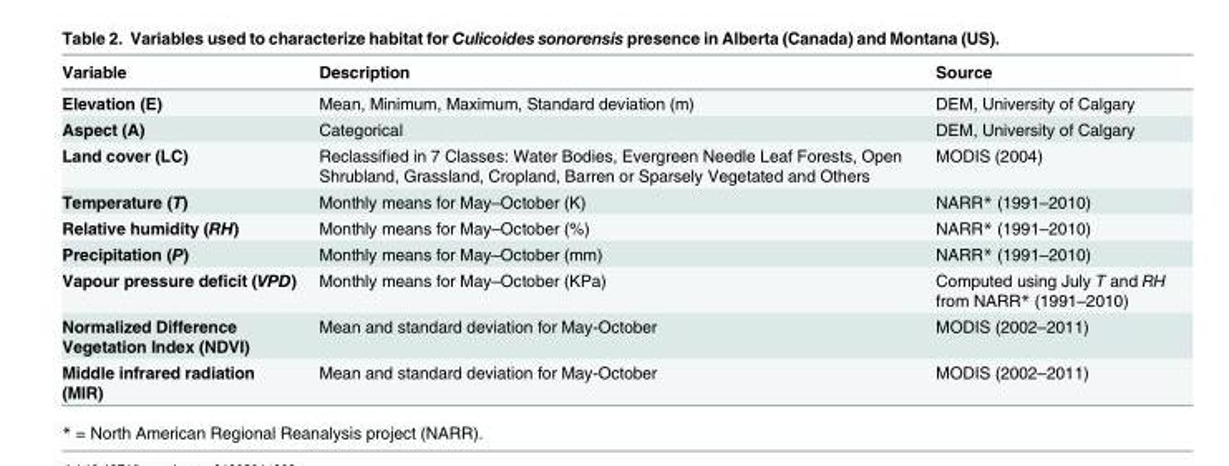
<table><thead><tr><td>Variable</td><td>Description</td><td>Source</td></tr></thead><tbody><tr><td>Elevation (E)</td><td>Mean, Minimum, Maximum, Standard deviation (m)</td><td>DEM, University of Calgary</td></tr><tr><td>Aspect (A)</td><td>Categorical</td><td>DEM, University of Calgary</td></tr><tr><td>Land cover (LC)</td><td>Reclassified in 7 Classes: Water Bodies, Evergreen Needle Leaf Forests, Open Shrubland, Grassland, Cropland, Barren or Sparsely Vegetated and Others</td><td>MODIS (2004)</td></tr><tr><td>Temperature (T)</td><td>Monthly means for May–October (K)</td><td>NARR* (1991–2010)</td></tr><tr><td>Relative humidity (RH)</td><td>Monthly means for May–October (%)</td><td>NARR* (1991–2010)</td></tr><tr><td>Precipitation (P)</td><td>Monthly means for May–October (mm)</td><td>NARR* (1991–2010)</td></tr><tr><td>Vapour pressure deficit (VPD)</td><td>Monthly means for May–October (KPa)</td><td>Computed using July T and RH from NARR* (1991–2010)</td></tr><tr><td>Normalized Difference Vegetation Index (NDVI)</td><td>Mean and standard deviation for May-October</td><td>MODIS (2002–2011)</td></tr><tr><td>Middle infrared radiation (MIR)</td><td>Mean and standard deviation for May-October</td><td>MODIS (2002–2011)</td></tr></tbody></table>